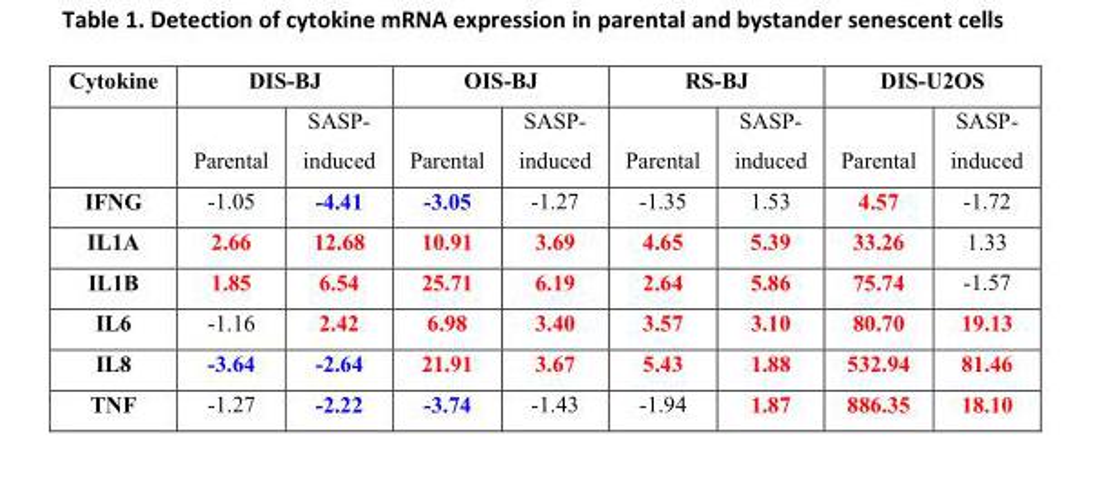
<table><thead><tr><td rowspan="2">Cytokine</td><td colspan="2">DIS-BJ</td><td colspan="2">OIS-BJ</td><td colspan="2">RS-BJ</td><td colspan="2">DIS-U2OS</td></tr><tr><td>Parental</td><td>SASP- induced</td><td>Parental</td><td>SASP- induced</td><td>Parental</td><td>SASP- induced</td><td>Parental</td><td>SASP- induced</td></tr></thead><tbody><tr><td>IFNG</td><td>-1.05</td><td>-4.41</td><td>-3.05</td><td>-1.27</td><td>-1.35</td><td>1.53</td><td>4.57</td><td>-1.72</td></tr><tr><td>IL1A</td><td>2.66</td><td>12.68</td><td>10.91</td><td>3.69</td><td>4.65</td><td>5.39</td><td>33.26</td><td>1.33</td></tr><tr><td>IL1B</td><td>1.85</td><td>6.54</td><td>25.71</td><td>6.19</td><td>2.64</td><td>5.86</td><td>75.74</td><td>-1.57</td></tr><tr><td>IL6</td><td>-1.16</td><td>2.42</td><td>6.98</td><td>3.40</td><td>3.57</td><td>3.10</td><td>80.70</td><td>19.13</td></tr><tr><td>IL8</td><td>-3.64</td><td>-2.64</td><td>21.91</td><td>3.67</td><td>5.43</td><td>1.88</td><td>532.94</td><td>81.46</td></tr><tr><td>TNF</td><td>-1.27</td><td>-2.22</td><td>-3.74</td><td>-1.43</td><td>-1.94</td><td>1.87</td><td>886.35</td><td>18.10</td></tr></tbody></table>